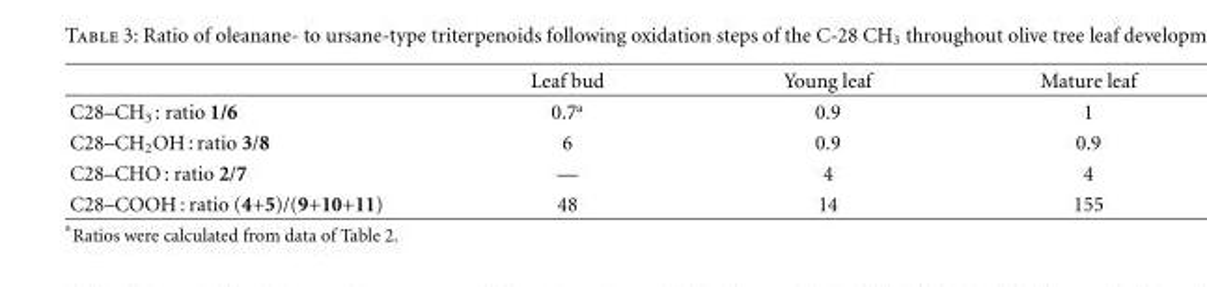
<table><thead><tr><td></td><td>Leaf bud</td><td>Young leaf</td><td>Mature leaf</td></tr></thead><tbody><tr><td>C28–CH<sub>3</sub> : ratio 1/6</td><td>0.7<sup>a</sup></td><td>0.9</td><td>1</td></tr><tr><td>C28–CH<sub>2</sub>OH : ratio 3/8</td><td>6</td><td>0.9</td><td>0.9</td></tr><tr><td>C28–CHO : ratio 2/7</td><td>—</td><td>4</td><td>4</td></tr><tr><td>C28–COOH : ratio (4+5)/(9+10+11)</td><td>48</td><td>14</td><td>155</td></tr></tbody></table>